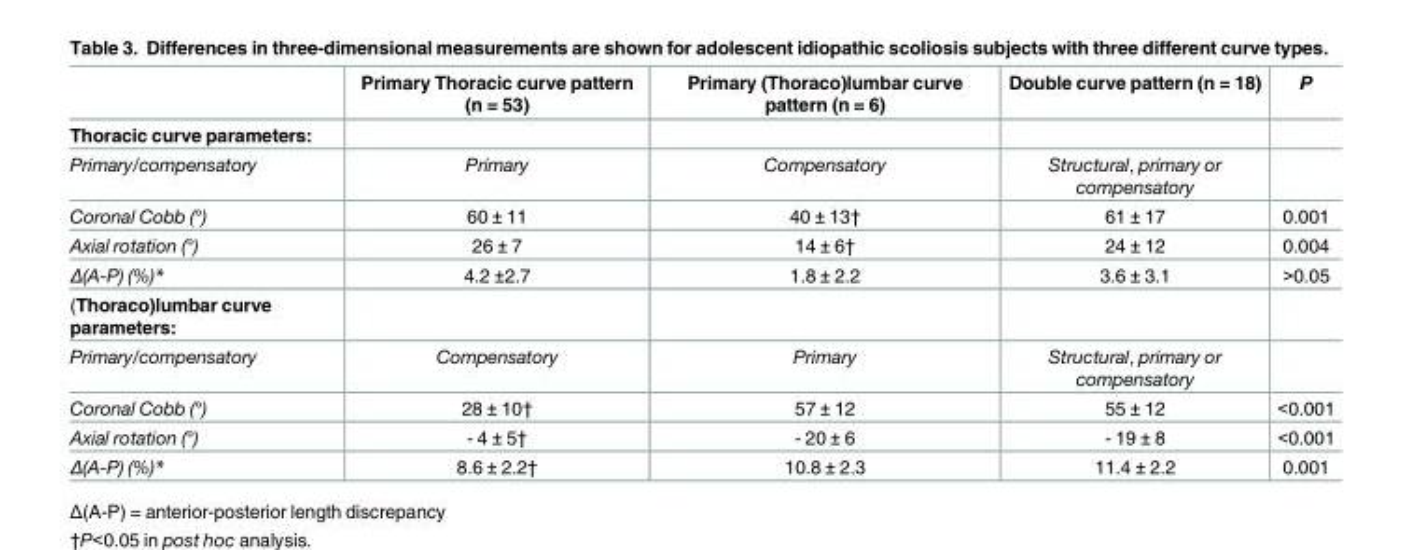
<table><thead><tr><td></td><td>Primary Thoracic curve pattern (n = 53)</td><td>Primary (Thoraco)lumbar curve pattern (n = 6)</td><td>Double curve pattern (n = 18)</td><td>P</td></tr></thead><tbody><tr><td colspan="5">Thoracic curve parameters:</td></tr><tr><td>Primary/compensatory</td><td>Primary</td><td>Compensatory</td><td>Structural, primary or compensatory</td><td></td></tr><tr><td>Coronal Cobb (°)</td><td>60 ± 11</td><td>40 ± 13†</td><td>61 ± 17</td><td>0.001</td></tr><tr><td>Axial rotation (°)</td><td>26 ± 7</td><td>14 ± 6†</td><td>24 ± 12</td><td>0.004</td></tr><tr><td>Δ(A-P) (%)*</td><td>4.2 ±2.7</td><td>1.8 ± 2.2</td><td>3.6 ± 3.1</td><td>&gt;0.05</td></tr><tr><td colspan="5">(Thoraco)lumbar curve parameters:</td></tr><tr><td>Primary/compensatory</td><td>Compensatory</td><td>Primary</td><td>Structural, primary or compensatory</td><td></td></tr><tr><td>Coronal Cobb (°)</td><td>28 ± 10†</td><td>57 ± 12</td><td>55 ± 12</td><td>&lt;0.001</td></tr><tr><td>Axial rotation (°)</td><td>- 4 ± 5†</td><td>- 20 ± 6</td><td>- 19 ± 8</td><td>&lt;0.001</td></tr><tr><td>Δ(A-P) (%)*</td><td>8.6 ± 2.2†</td><td>10.8 ± 2.3</td><td>11.4 ± 2.2</td><td>0.001</td></tr></tbody></table>